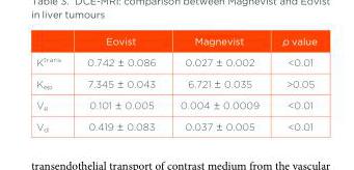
<table><thead><tr><td></td><td>Eovist</td><td>Magnevist</td><td>p value</td></tr></thead><tbody><tr><td>K<sup>trans</sup></td><td>0.742 ± 0.086</td><td>0.027 ± 0.002</td><td>&lt;0.01</td></tr><tr><td>K<sub>ep</sub></td><td>7.345 ± 0.043</td><td>6.721 ± 0.035</td><td>&gt;0.05</td></tr><tr><td>V<sub>e</sub></td><td>0.101 ± 0.005</td><td>0.004 ± 0.0009</td><td>&lt;0.01</td></tr><tr><td>V<sub>d</sub></td><td>0.419 ± 0.083</td><td>0.037 ± 0.005</td><td>&lt;0.01</td></tr></tbody></table>